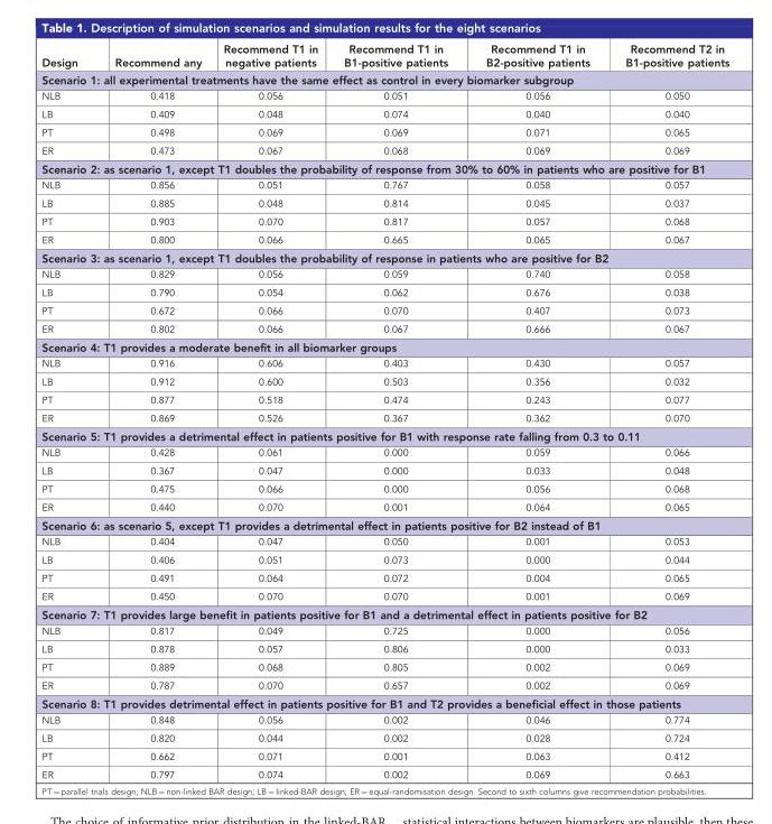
<table><thead><tr><td>Design</td><td>Recommend any</td><td>Recommend T1 in negative patients</td><td>Recommend T1 in B1-positive patients</td><td>Recommend T1 in B2-positive patients</td><td>Recommend T2 in B1-positive patients</td></tr></thead><tbody><tr><td colspan="6">Scenario 1: all experimental treatments have the same effect as control in every biomarker subgroup</td></tr><tr><td>NLB</td><td>0.418</td><td>0.056</td><td>0.051</td><td>0.056</td><td>0.050</td></tr><tr><td>LB</td><td>0.409</td><td>0.048</td><td>0.074</td><td>0.040</td><td>0.040</td></tr><tr><td>PT</td><td>0.498</td><td>0.069</td><td>0.069</td><td>0.071</td><td>0.065</td></tr><tr><td>ER</td><td>0.473</td><td>0.067</td><td>0.068</td><td>0.069</td><td>0.069</td></tr><tr><td colspan="6">Scenario 2: as scenario 1, except T1 doubles the probability of response from 30% to 60% in patients who are positive for B1</td></tr><tr><td>NLB</td><td>0.856</td><td>0.051</td><td>0.767</td><td>0.058</td><td>0.057</td></tr><tr><td>LB</td><td>0.885</td><td>0.048</td><td>0.814</td><td>0.045</td><td>0.037</td></tr><tr><td>PT</td><td>0.903</td><td>0.070</td><td>0.817</td><td>0.057</td><td>0.068</td></tr><tr><td>ER</td><td>0.800</td><td>0.066</td><td>0.665</td><td>0.065</td><td>0.067</td></tr><tr><td colspan="6">Scenario 3: as scenario 1, except T1 doubles the probability of response in patients who are positive for B2</td></tr><tr><td>NLB</td><td>0.829</td><td>0.056</td><td>0.059</td><td>0.740</td><td>0.058</td></tr><tr><td>LB</td><td>0.790</td><td>0.054</td><td>0.062</td><td>0.676</td><td>0.038</td></tr><tr><td>PT</td><td>0.672</td><td>0.066</td><td>0.070</td><td>0.407</td><td>0.073</td></tr><tr><td>ER</td><td>0.802</td><td>0.066</td><td>0.067</td><td>0.666</td><td>0.067</td></tr><tr><td colspan="6">Scenario 4: T1 provides a moderate benefit in all biomarker groups</td></tr><tr><td>NLB</td><td>0.916</td><td>0.606</td><td>0.403</td><td>0.430</td><td>0.057</td></tr><tr><td>LB</td><td>0.912</td><td>0.600</td><td>0.503</td><td>0.356</td><td>0.032</td></tr><tr><td>PT</td><td>0.877</td><td>0.518</td><td>0.474</td><td>0.243</td><td>0.077</td></tr><tr><td>ER</td><td>0.869</td><td>0.526</td><td>0.367</td><td>0.362</td><td>0.070</td></tr><tr><td colspan="6">Scenario 5: T1 provides a detrimental effect in patients positive for B1 with response rate falling from 0.3 to 0.11</td></tr><tr><td>NLB</td><td>0.428</td><td>0.061</td><td>0.000</td><td>0.059</td><td>0.066</td></tr><tr><td>LB</td><td>0.367</td><td>0.047</td><td>0.000</td><td>0.033</td><td>0.048</td></tr><tr><td>PT</td><td>0.475</td><td>0.066</td><td>0.000</td><td>0.056</td><td>0.068</td></tr><tr><td>ER</td><td>0.440</td><td>0.070</td><td>0.001</td><td>0.064</td><td>0.065</td></tr><tr><td colspan="6">Scenario 6: as scenario 5, except T1 provides a detrimental effect in patients positive for B2 instead of B1</td></tr><tr><td>NLB</td><td>0.404</td><td>0.047</td><td>0.050</td><td>0.001</td><td>0.053</td></tr><tr><td>LB</td><td>0.406</td><td>0.051</td><td>0.073</td><td>0.000</td><td>0.044</td></tr><tr><td>PT</td><td>0.491</td><td>0.064</td><td>0.072</td><td>0.004</td><td>0.065</td></tr><tr><td>ER</td><td>0.450</td><td>0.070</td><td>0.070</td><td>0.001</td><td>0.069</td></tr><tr><td colspan="6">Scenario 7: T1 provides large benefit in patients positive for B1 and a detrimental effect in patients positive for B2</td></tr><tr><td>NLB</td><td>0.817</td><td>0.049</td><td>0.725</td><td>0.000</td><td>0.056</td></tr><tr><td>LB</td><td>0.878</td><td>0.057</td><td>0.806</td><td>0.000</td><td>0.033</td></tr><tr><td>PT</td><td>0.889</td><td>0.068</td><td>0.805</td><td>0.002</td><td>0.069</td></tr><tr><td>ER</td><td>0.787</td><td>0.070</td><td>0.657</td><td>0.002</td><td>0.069</td></tr><tr><td colspan="6">Scenario 8: T1 provides detrimental effect in patients positive for B1 and T2 provides a beneficial effect in those patients</td></tr><tr><td>NLB</td><td>0.848</td><td>0.056</td><td>0.002</td><td>0.046</td><td>0.774</td></tr><tr><td>LB</td><td>0.820</td><td>0.044</td><td>0.002</td><td>0.028</td><td>0.724</td></tr><tr><td>PT</td><td>0.662</td><td>0.071</td><td>0.001</td><td>0.063</td><td>0.412</td></tr><tr><td>ER</td><td>0.797</td><td>0.074</td><td>0.002</td><td>0.069</td><td>0.663</td></tr></tbody></table>